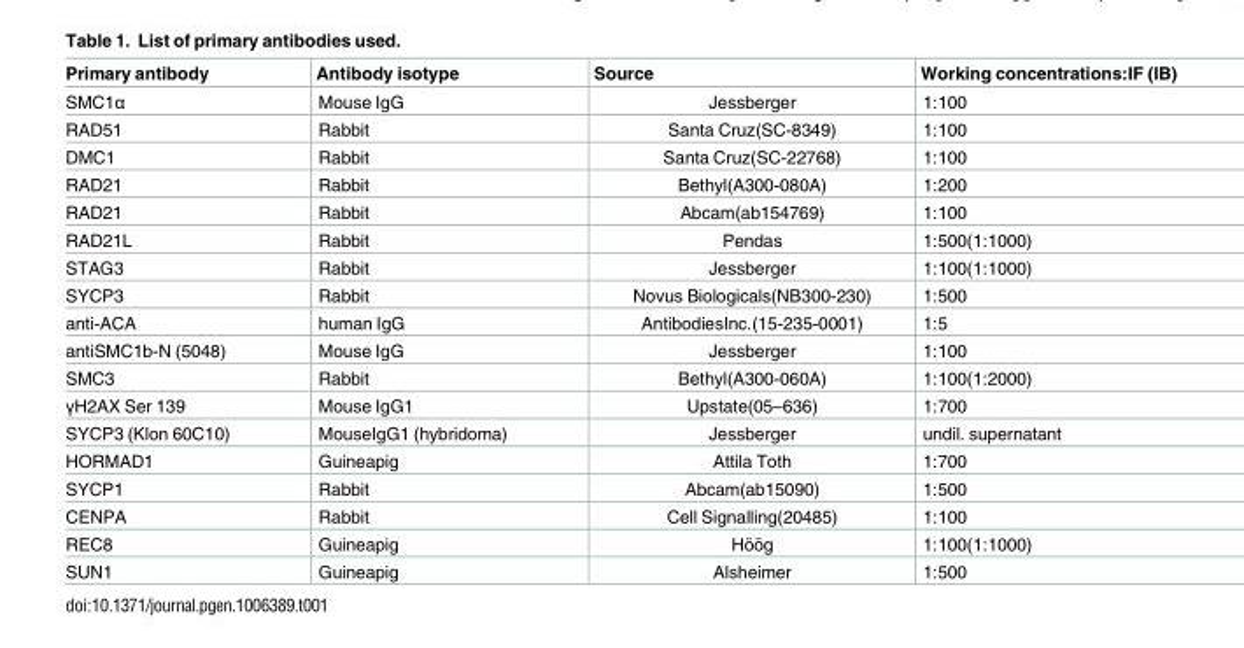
<table><thead><tr><td>Primary antibody</td><td>Antibody isotype</td><td>Source</td><td>Working concentrations:IF (IB)</td></tr></thead><tbody><tr><td>SMC1α</td><td>Mouse IgG</td><td>Jessberger</td><td>1:100</td></tr><tr><td>RAD51</td><td>Rabbit</td><td>Santa Cruz(SC-8349)</td><td>1:100</td></tr><tr><td>DMC1</td><td>Rabbit</td><td>Santa Cruz(SC-22768)</td><td>1:100</td></tr><tr><td>RAD21</td><td>Rabbit</td><td>Bethyl(A300-080A)</td><td>1:200</td></tr><tr><td>RAD21</td><td>Rabbit</td><td>Abcam(ab154769)</td><td>1:100</td></tr><tr><td>RAD21L</td><td>Rabbit</td><td>Pendas</td><td>1:500(1:1000)</td></tr><tr><td>STAG3</td><td>Rabbit</td><td>Jessberger</td><td>1:100(1:1000)</td></tr><tr><td>SYCP3</td><td>Rabbit</td><td>Novus Biologicals(NB300-230)</td><td>1:500</td></tr><tr><td>anti-ACA</td><td>human IgG</td><td>AntibodiesInc.(15-235-0001)</td><td>1:5</td></tr><tr><td>antiSMC1b-N (5048)</td><td>Mouse IgG</td><td>Jessberger</td><td>1:100</td></tr><tr><td>SMC3</td><td>Rabbit</td><td>Bethyl(A300-060A)</td><td>1:100(1:2000)</td></tr><tr><td>γH2AX Ser 139</td><td>Mouse IgG1</td><td>Upstate(05–636)</td><td>1:700</td></tr><tr><td>SYCP3 (Klon 60C10)</td><td>MouseIgG1 (hybridoma)</td><td>Jessberger</td><td>undil. supernatant</td></tr><tr><td>HORMAD1</td><td>Guineapig</td><td>Attila Toth</td><td>1:700</td></tr><tr><td>SYCP1</td><td>Rabbit</td><td>Abcam(ab15090)</td><td>1:500</td></tr><tr><td>CENPA</td><td>Rabbit</td><td>Cell Signalling(20485)</td><td>1:100</td></tr><tr><td>REC8</td><td>Guineapig</td><td>Ho¨o¨g</td><td>1:100(1:1000)</td></tr><tr><td>SUN1</td><td>Guineapig</td><td>Alsheimer</td><td>1:500</td></tr></tbody></table>